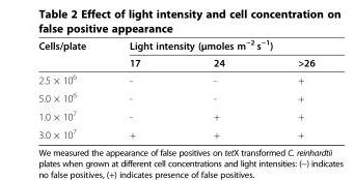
<table><thead><tr><td rowspan="2">Cells/plate</td><td colspan="3">Light intensity (μmoles m<sup>−2</sup> s<sup>−1</sup>)</td></tr><tr><td>17</td><td>24</td><td>&gt;26</td></tr></thead><tbody><tr><td>2.5 × 10<sup>6</sup></td><td>-</td><td>-</td><td>+</td></tr><tr><td>5.0 × 10<sup>6</sup></td><td>-</td><td>-</td><td>+</td></tr><tr><td>1.0 × 10<sup>7</sup></td><td>-</td><td>+</td><td>+</td></tr><tr><td>3.0 × 10<sup>7</sup></td><td>+</td><td>+</td><td>+</td></tr></tbody></table>